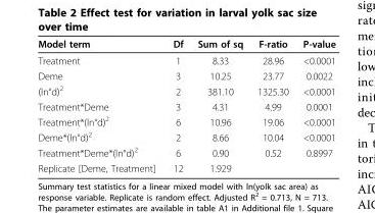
<table><thead><tr><td>Model term</td><td>Df</td><td>Sum of sq</td><td>F-ratio</td><td>P-value</td></tr></thead><tbody><tr><td>Treatment</td><td>1</td><td>8.33</td><td>28.96</td><td>&lt;0.0001</td></tr><tr><td>Deme</td><td>3</td><td>10.25</td><td>23.77</td><td>0.0022</td></tr><tr><td>(ln°d)<sup>2</sup></td><td>2</td><td>381.10</td><td>1325.30</td><td>&lt;0.0001</td></tr><tr><td>Treatment*Deme</td><td>3</td><td>4.31</td><td>4.99</td><td>0.0001</td></tr><tr><td>Treatment*(ln°d)<sup>2</sup></td><td>6</td><td>10.96</td><td>19.06</td><td>&lt;0.0001</td></tr><tr><td>Deme*(ln°d)<sup>2</sup></td><td>2</td><td>8.66</td><td>10.04</td><td>&lt;0.0001</td></tr><tr><td>Treatment*Deme*(ln°d)<sup>2</sup></td><td>6</td><td>0.90</td><td>0.52</td><td>0.8997</td></tr><tr><td>Replicate [Deme, Treatment]</td><td>12</td><td>1.929</td><td></td><td></td></tr></tbody></table>